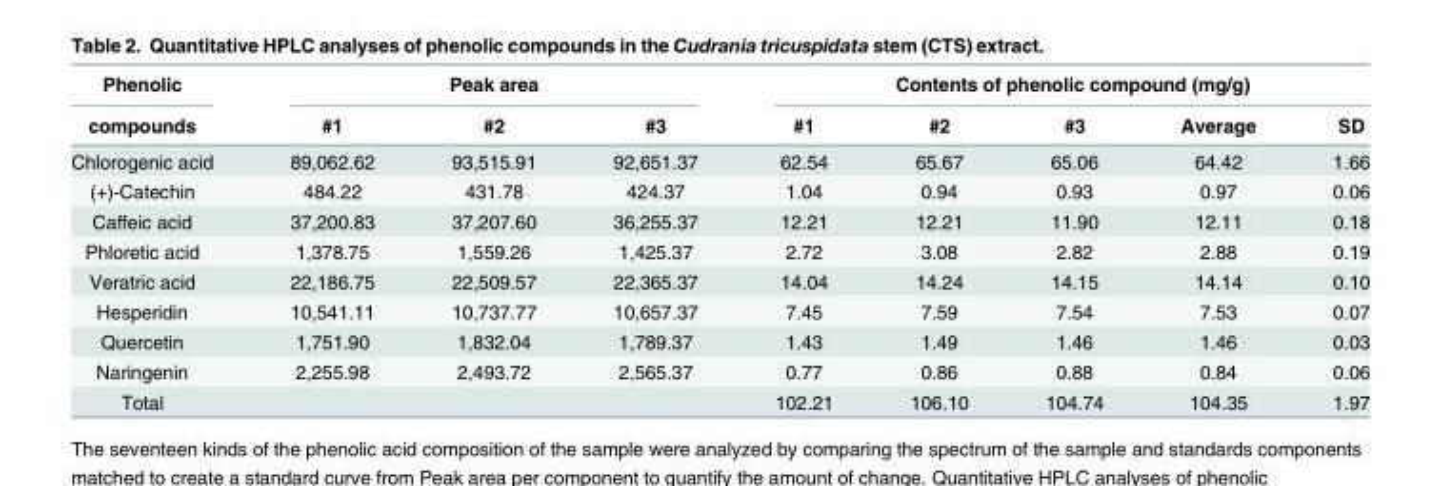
<table><thead><tr><td rowspan="2">Phenolic compounds</td><td colspan="3">Peak area</td><td colspan="5">Contents of phenolic compound (mg/g)</td></tr><tr><td>#1</td><td>#2</td><td>#3</td><td>#1</td><td>#2</td><td>#3</td><td>Average</td><td>SD</td></tr></thead><tbody><tr><td>Chlorogenic acid</td><td>89,062.62</td><td>93,515.91</td><td>92,651.37</td><td>62.54</td><td>65.67</td><td>65.06</td><td>64.42</td><td>1.66</td></tr><tr><td>(+)-Catechin</td><td>484.22</td><td>431.78</td><td>424.37</td><td>1.04</td><td>0.94</td><td>0.93</td><td>0.97</td><td>0.06</td></tr><tr><td>Caffeic acid</td><td>37,200.83</td><td>37,207.60</td><td>36,255.37</td><td>12.21</td><td>12.21</td><td>11.90</td><td>12.11</td><td>0.18</td></tr><tr><td>Phloretic acid</td><td>1,378.75</td><td>1,559.26</td><td>1,425.37</td><td>2.72</td><td>3.08</td><td>2.82</td><td>2.88</td><td>0.19</td></tr><tr><td>Veratric acid</td><td>22,186.75</td><td>22,509.57</td><td>22,365.37</td><td>14.04</td><td>14.24</td><td>14.15</td><td>14.14</td><td>0.10</td></tr><tr><td>Hesperidin</td><td>10,541.11</td><td>10,737.77</td><td>10,657.37</td><td>7.45</td><td>7.59</td><td>7.54</td><td>7.53</td><td>0.07</td></tr><tr><td>Quercetin</td><td>1,751.90</td><td>1,832.04</td><td>1,789.37</td><td>1.43</td><td>1.49</td><td>1.46</td><td>1.46</td><td>0.03</td></tr><tr><td>Naringenin</td><td>2,255.98</td><td>2,493.72</td><td>2,565.37</td><td>0.77</td><td>0.86</td><td>0.88</td><td>0.84</td><td>0.06</td></tr><tr><td>Total</td><td></td><td></td><td></td><td>102.21</td><td>106.10</td><td>104.74</td><td>104.35</td><td>1.97</td></tr></tbody></table>